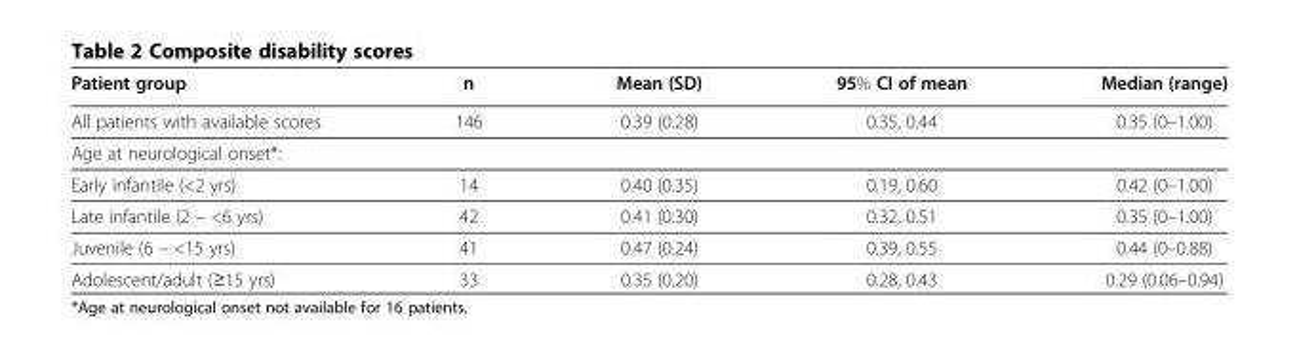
<table><thead><tr><td>Patient group</td><td>n</td><td>Mean (SD)</td><td>95% CI of mean</td><td>Median (range)</td></tr></thead><tbody><tr><td>All patients with available scores</td><td>146</td><td>0.39 (0.28)</td><td>0.35, 0.44</td><td>0.35 (0–1.00)</td></tr><tr><td colspan="5">Age at neurological onset*:</td></tr><tr><td>Early infantile (&lt;2 yrs)</td><td>14</td><td>0.40 (0.35)</td><td>0.19, 0.60</td><td>0.42 (0–1.00)</td></tr><tr><td>Late infantile (2 – &lt;6 yrs)</td><td>42</td><td>0.41 (0.30)</td><td>0.32, 0.51</td><td>0.35 (0–1.00)</td></tr><tr><td>Juvenile (6 – &lt;15 yrs)</td><td>41</td><td>0.47 (0.24)</td><td>0.39, 0.55</td><td>0.44 (0–0.88)</td></tr><tr><td>Adolescent/adult (≥15 yrs)</td><td>33</td><td>0.35 (0.20)</td><td>0.28, 0.43</td><td>0.29 (0.06–0.94)</td></tr></tbody></table>